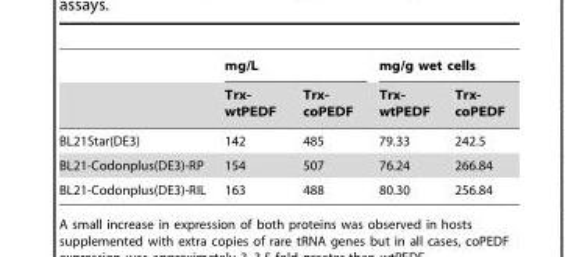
<table><thead><tr><td rowspan="2"></td><td colspan="2">mg/L</td><td colspan="2">mg/g wet cells</td></tr><tr><td>Trx- wtPEDF</td><td>Trx- coPEDF</td><td>Trx- wtPEDF</td><td>Trx- coPEDF</td></tr></thead><tbody><tr><td>BL21Star(DE3)</td><td>142</td><td>485</td><td>79.33</td><td>242.5</td></tr><tr><td>BL21-Codonplus(DE3)-RP</td><td>154</td><td>507</td><td>76.24</td><td>266.84</td></tr><tr><td>BL21-Codonplus(DE3)-RIL</td><td>163</td><td>488</td><td>80.30</td><td>256.84</td></tr></tbody></table>